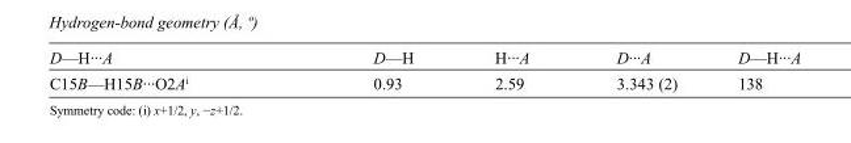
<table><tbody><tr><td>D—H···A</td><td>D—H</td><td>H···A</td><td>D···A</td><td>D—H···A</td></tr><tr><td>C15B—H15B···O2A<sup>i</sup></td><td>0.93</td><td>2.59</td><td>3.343 (2)</td><td>138</td></tr></tbody></table>